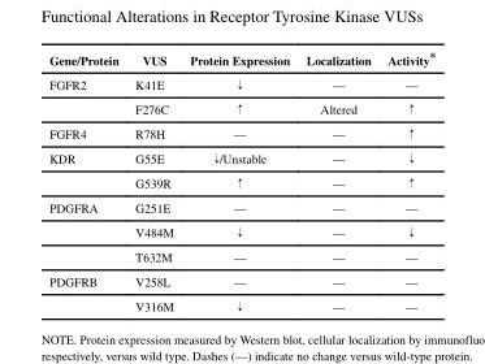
<table><thead><tr><td>Gene/Protein</td><td>VUS</td><td>Protein Expression</td><td>Localization</td><td>Activity*</td></tr></thead><tbody><tr><td rowspan="2">FGFR2</td><td>K41E</td><td>↓</td><td>—</td><td>—</td></tr><tr><td>F276C</td><td>↑</td><td>Altered</td><td>↑</td></tr><tr><td>FGFR4</td><td>R78H</td><td>—</td><td>—</td><td>↑</td></tr><tr><td rowspan="2">KDR</td><td>G55E</td><td>↓/Unstable</td><td>—</td><td>↓</td></tr><tr><td>G539R</td><td>↑</td><td>—</td><td>↑</td></tr><tr><td rowspan="3">PDGFRA</td><td>G251E</td><td>—</td><td>—</td><td>—</td></tr><tr><td>V484M</td><td>↓</td><td>—</td><td>↓</td></tr><tr><td>T632M</td><td>—</td><td>—</td><td>—</td></tr><tr><td rowspan="2">PDGFRB</td><td>V258L</td><td>—</td><td>—</td><td>—</td></tr><tr><td>V316M</td><td>↓</td><td>—</td><td>—</td></tr></tbody></table>